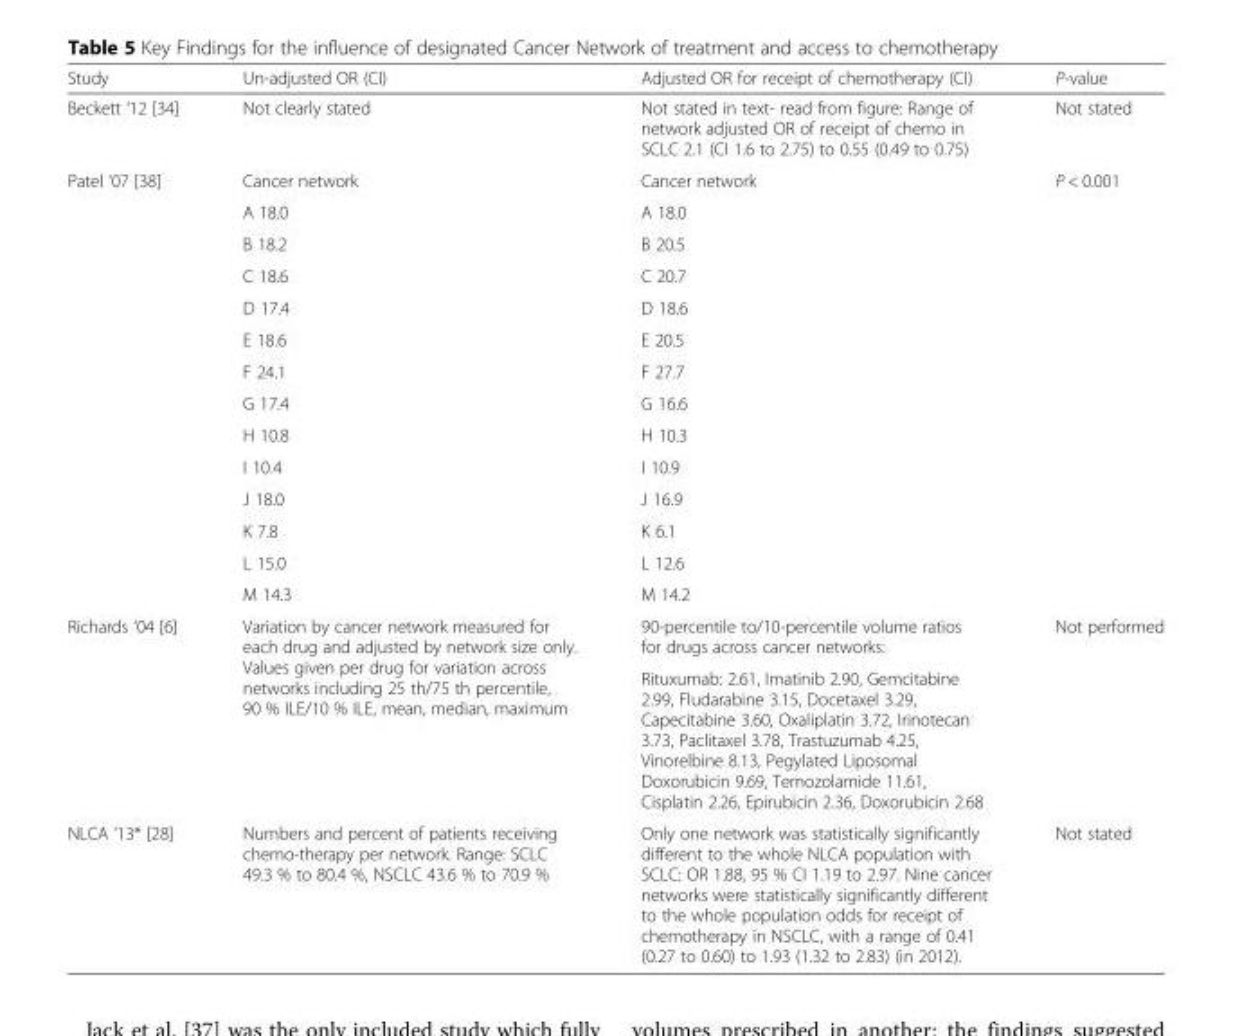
<table><thead><tr><td>Study</td><td>Un-adjusted OR (CI)</td><td>Adjusted OR for receipt of chemotherapy (CI)</td><td>P-value</td></tr></thead><tbody><tr><td>Beckett ‘12 [34]</td><td>Not clearly stated</td><td>Not stated in text- read from figure: Range of network adjusted OR of receipt of chemo in SCLC 2.1 (CI 1.6 to 2.75) to 0.55 (0.49 to 0.75)</td><td>Not stated</td></tr><tr><td rowspan="14">Patel ‘07 [38]</td><td>Cancer network</td><td>Cancer network</td><td rowspan="14">P &lt; 0.001</td></tr><tr><td>A 18.0</td><td>A 18.0</td></tr><tr><td>B 18.2</td><td>B 20.5</td></tr><tr><td>C 18.6</td><td>C 20.7</td></tr><tr><td>D 17.4</td><td>D 18.6</td></tr><tr><td>E 18.6</td><td>E 20.5</td></tr><tr><td>F 24.1</td><td>F 27.7</td></tr><tr><td>G 17.4</td><td>G 16.6</td></tr><tr><td>H 10.8</td><td>H 10.3</td></tr><tr><td>I 10.4</td><td>I 10.9</td></tr><tr><td>J 18.0</td><td>J 16.9</td></tr><tr><td>K 7.8</td><td>K 6.1</td></tr><tr><td>L 15.0</td><td>L 12.6</td></tr><tr><td>M 14.3</td><td>M 14.2</td></tr><tr><td rowspan="2">Richards ‘04 [6]</td><td rowspan="2">Variation by cancer network measured for each drug and adjusted by network size only. Values given per drug for variation across networks including 25 th/75 th percentile, 90 % ILE/10 % ILE, mean, median, maximum</td><td>90-percentile to/10-percentile volume ratios for drugs across cancer networks:</td><td rowspan="2">Not performed</td></tr><tr><td>Rituxumab: 2.61, Imatinib 2.90, Gemcitabine 2.99, Fludarabine 3.15, Docetaxel 3.29, Capecitabine 3.60, Oxaliplatin 3.72, Irinotecan 3.73, Paclitaxel 3.78, Trastuzumab 4.25, Vinorelbine 8.13, Pegylated Liposomal Doxorubicin 9.69, Temozolamide 11.61, Cisplatin 2.26, Epirubicin 2.36, Doxorubicin 2.68</td></tr><tr><td>NLCA ‘13* [28]</td><td>Numbers and percent of patients receiving chemo-therapy per network. Range: SCLC 49.3 % to 80.4 %, NSCLC 43.6 % to 70.9 %</td><td>Only one network was statistically significantly different to the whole NLCA population with SCLC: OR 1.88, 95 % CI 1.19 to 2.97. Nine cancer networks were statistically significantly different to the whole population odds for receipt of chemotherapy in NSCLC, with a range of 0.41 (0.27 to 0.60) to 1.93 (1.32 to 2.83) (in 2012).</td><td>Not stated</td></tr></tbody></table>